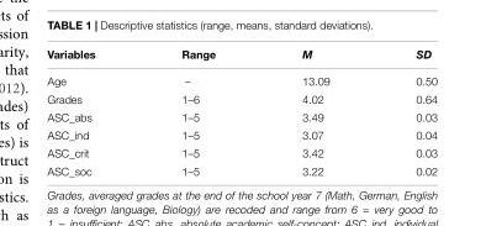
<table><thead><tr><td>Variables</td><td>Range</td><td>M</td><td>SD</td></tr></thead><tbody><tr><td>Age</td><td>–</td><td>13.09</td><td>0.50</td></tr><tr><td>Grades</td><td>1–6</td><td>4.02</td><td>0.64</td></tr><tr><td>ASC_abs</td><td>1–5</td><td>3.49</td><td>0.03</td></tr><tr><td>ASC_ind</td><td>1–5</td><td>3.07</td><td>0.04</td></tr><tr><td>ASC_crit</td><td>1–5</td><td>3.42</td><td>0.03</td></tr><tr><td>ASC_soc</td><td>1–5</td><td>3.22</td><td>0.02</td></tr></tbody></table>